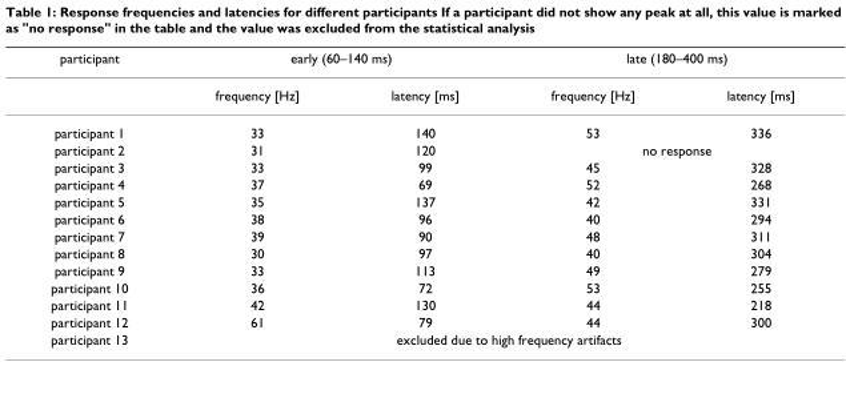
<table><thead><tr><td rowspan="2">participant</td><td colspan="2">early (60–140 ms)</td><td colspan="2">late (180–400 ms)</td></tr><tr><td>frequency [Hz]</td><td>latency [ms]</td><td>frequency [Hz]</td><td>latency [ms]</td></tr></thead><tbody><tr><td>participant 1</td><td>33</td><td>140</td><td>53</td><td>336</td></tr><tr><td>participant 2</td><td>31</td><td>120</td><td colspan="2">no response</td></tr><tr><td>participant 3</td><td>33</td><td>99</td><td>45</td><td>328</td></tr><tr><td>participant 4</td><td>37</td><td>69</td><td>52</td><td>268</td></tr><tr><td>participant 5</td><td>35</td><td>137</td><td>42</td><td>331</td></tr><tr><td>participant 6</td><td>38</td><td>96</td><td>40</td><td>294</td></tr><tr><td>participant 7</td><td>39</td><td>90</td><td>48</td><td>311</td></tr><tr><td>participant 8</td><td>30</td><td>97</td><td>40</td><td>304</td></tr><tr><td>participant 9</td><td>33</td><td>113</td><td>49</td><td>279</td></tr><tr><td>participant 10</td><td>36</td><td>72</td><td>53</td><td>255</td></tr><tr><td>participant 11</td><td>42</td><td>130</td><td>44</td><td>218</td></tr><tr><td>participant 12</td><td>61</td><td>79</td><td>44</td><td>300</td></tr><tr><td>participant 13</td><td colspan="4">excluded due to high frequency artifacts</td></tr></tbody></table>